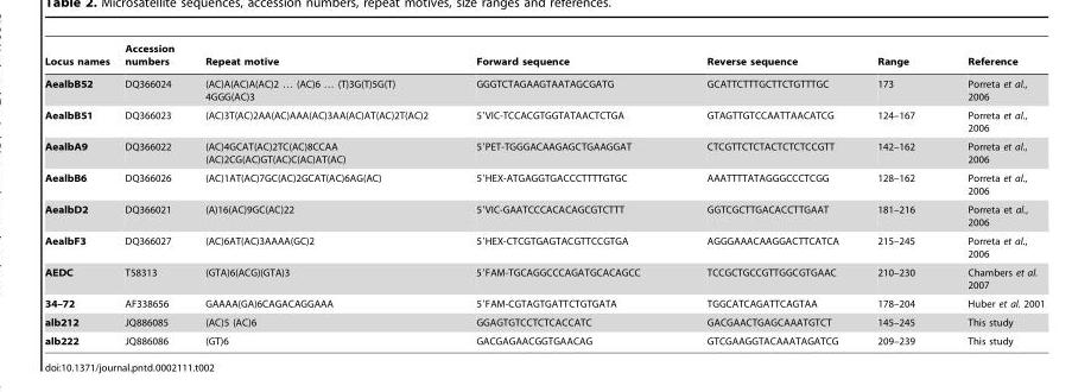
<table><thead><tr><td>Locus names</td><td>Accession numbers</td><td>Repeat motive</td><td>Forward sequence</td><td>Reverse sequence</td><td>Range</td><td>Reference</td></tr></thead><tbody><tr><td>AealbB52</td><td>DQ366024</td><td>(AC)A(AC)A(AC)2 … (AC)6 … (T)3G(T)5G(T) 4GGG(AC)3</td><td>GGGTCTAGAAGTAATAGCGATG</td><td>GCATTCTTTGCTTCTGTTTGC</td><td>173</td><td>Porreta et al., 2006</td></tr><tr><td>AealbB51</td><td>DQ366023</td><td>(AC)3T(AC)2AA(AC)AAA(AC)3AA(AC)AT(AC)2T(AC)2</td><td>5′VIC-TCCACGTGGTATAACTCTGA</td><td>GTAGTTGTCCAATTAACATCG</td><td>124–167</td><td>Porreta et al., 2006</td></tr><tr><td>AealbA9</td><td>DQ366022</td><td>(AC)4GCAT(AC)2TC(AC)8CCAA (AC)2CG(AC)GT(AC)C(AC)AT(AC)</td><td>5′PET-TGGGACAAGAGCTGAAGGAT</td><td>CTCGTTCTCTACTCTCTCCGTT</td><td>142–162</td><td>Porreta et al., 2006</td></tr><tr><td>AealbB6</td><td>DQ366026</td><td>(AC)1AT(AC)7GC(AC)2GCAT(AC)6AG(AC)</td><td>5′HEX-ATGAGGTGACCCTTTTGTGC</td><td>AAATTTTATAGGGCCCTCGG</td><td>128–162</td><td>Porreta et al., 2006</td></tr><tr><td>AealbD2</td><td>DQ366021</td><td>(A)16(AC)9GC(AC)22</td><td>5′VIC-GAATCCCACACAGCGTCTTT</td><td>GGTCGCTTGACACCTTGAAT</td><td>181–216</td><td>Porreta et al., 2006</td></tr><tr><td>AealbF3</td><td>DQ366027</td><td>(AC)6AT(AC)3AAAA(GC)2</td><td>5′HEX-CTCGTGAGTACGTTCCGTGA</td><td>AGGGAAACAAGGACTTCATCA</td><td>215–245</td><td>Porreta et al., 2006</td></tr><tr><td>AEDC</td><td>T58313</td><td>(GTA)6(ACG)(GTA)3</td><td>5′FAM-TGCAGGCCCAGATGCACAGCC</td><td>TCCGCTGCCGTTGGCGTGAAC</td><td>210–230</td><td>Chambers et al. 2007</td></tr><tr><td>34–72</td><td>AF338656</td><td>GAAAA(GA)6CAGACAGGAAA</td><td>5′FAM-CGTAGTGATTCTGTGATA</td><td>TGGCATCAGATTCAGTAA</td><td>178–204</td><td>Huber et al. 2001</td></tr><tr><td>alb212</td><td>JQ886085</td><td>(AC)5 (AC)6</td><td>GGAGTGTCCTCTCACCATC</td><td>GACGAACTGAGCAAATGTCT</td><td>145–245</td><td>This study</td></tr><tr><td>alb222</td><td>JQ886086</td><td>(GT)6</td><td>GACGAGAACGGTGAACAG</td><td>GTCGAAGGTACAAATAGATCG</td><td>209–239</td><td>This study</td></tr></tbody></table>